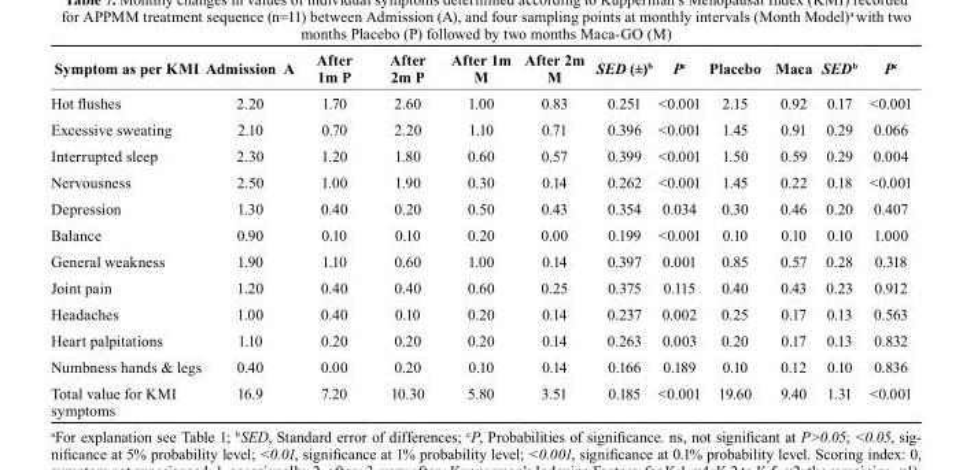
<table><thead><tr><td>Symptom as per KMI</td><td>Admission A</td><td>After 1m P</td><td>After 2m P</td><td>After 1m M</td><td>After 2m M</td><td>SED (±)<sup>b</sup></td><td>P<sup>c</sup></td><td>Placebo</td><td>Maca</td><td>SED<sup>b</sup></td><td>P<sup>c</sup></td></tr></thead><tbody><tr><td>Hot flushes</td><td>2.20</td><td>1.70</td><td>2.60</td><td>1.00</td><td>0.83</td><td>0.251</td><td>&lt;0.001</td><td>2.15</td><td>0.92</td><td>0.17</td><td>&lt;0.001</td></tr><tr><td>Excessive sweating</td><td>2.10</td><td>0.70</td><td>2.20</td><td>1.10</td><td>0.71</td><td>0.396</td><td>&lt;0.001</td><td>1.45</td><td>0.91</td><td>0.29</td><td>0.066</td></tr><tr><td>Interrupted sleep</td><td>2.30</td><td>1.20</td><td>1.80</td><td>0.60</td><td>0.57</td><td>0.399</td><td>&lt;0.001</td><td>1.50</td><td>0.59</td><td>0.29</td><td>0.004</td></tr><tr><td>Nervousness</td><td>2.50</td><td>1.00</td><td>1.90</td><td>0.30</td><td>0.14</td><td>0.262</td><td>&lt;0.001</td><td>1.45</td><td>0.22</td><td>0.18</td><td>&lt;0.001</td></tr><tr><td>Depression</td><td>1.30</td><td>0.40</td><td>0.20</td><td>0.50</td><td>0.43</td><td>0.354</td><td>0.034</td><td>0.30</td><td>0.46</td><td>0.20</td><td>0.407</td></tr><tr><td>Balance</td><td>0.90</td><td>0.10</td><td>0.10</td><td>0.20</td><td>0.00</td><td>0.199</td><td>&lt;0.001</td><td>0.10</td><td>0.10</td><td>0.10</td><td>1.000</td></tr><tr><td>General weakness</td><td>1.90</td><td>1.10</td><td>0.60</td><td>1.00</td><td>0.14</td><td>0.397</td><td>0.001</td><td>0.85</td><td>0.57</td><td>0.28</td><td>0.318</td></tr><tr><td>Joint pain</td><td>1.20</td><td>0.40</td><td>0.40</td><td>0.60</td><td>0.25</td><td>0.375</td><td>0.115</td><td>0.40</td><td>0.43</td><td>0.23</td><td>0.912</td></tr><tr><td>Headaches</td><td>1.00</td><td>0.40</td><td>0.10</td><td>0.20</td><td>0.14</td><td>0.237</td><td>0.002</td><td>0.25</td><td>0.17</td><td>0.13</td><td>0.563</td></tr><tr><td>Heart palpitations</td><td>1.10</td><td>0.20</td><td>0.20</td><td>0.20</td><td>0.14</td><td>0.263</td><td>0.003</td><td>0.20</td><td>0.17</td><td>0.13</td><td>0.832</td></tr><tr><td>Numbness hands &amp; legs</td><td>0.40</td><td>0.00</td><td>0.20</td><td>0.10</td><td>0.14</td><td>0.166</td><td>0.189</td><td>0.10</td><td>0.12</td><td>0.10</td><td>0.836</td></tr><tr><td>Total value for KMI symptoms</td><td>16.9</td><td>7.20</td><td>10.30</td><td>5.80</td><td>3.51</td><td>0.185</td><td>&lt;0.001</td><td>19.60</td><td>9.40</td><td>1.31</td><td>&lt;0.001</td></tr></tbody></table>